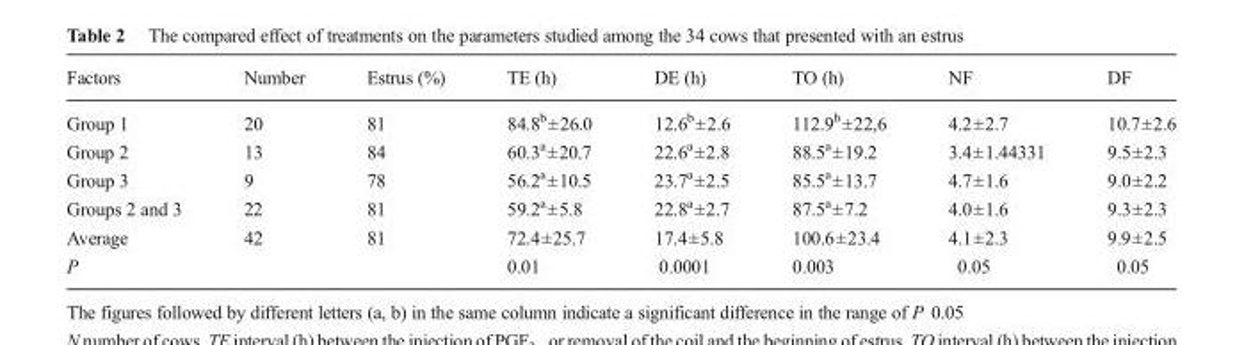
<table><thead><tr><td>Factors</td><td>Number</td><td>Estrus (%)</td><td>TE (h)</td><td>DE (h)</td><td>TO (h)</td><td>NF</td><td>DF</td></tr></thead><tbody><tr><td>Group 1</td><td>20</td><td>81</td><td>84.8<sup>b</sup>±26.0</td><td>12.6<sup>b</sup>±2.6</td><td>112.9<sup>b</sup>±22,6</td><td>4.2±2.7</td><td>10.7±2.6</td></tr><tr><td>Group 2</td><td>13</td><td>84</td><td>60.3<sup>a</sup>±20.7</td><td>22.6<sup>a</sup>±2.8</td><td>88.5<sup>a</sup>±19.2</td><td>3.4±1.44331</td><td>9.5±2.3</td></tr><tr><td>Group 3</td><td>9</td><td>78</td><td>56.2<sup>a</sup>±10.5</td><td>23.7<sup>a</sup>±2.5</td><td>85.5<sup>a</sup>±13.7</td><td>4.7±1.6</td><td>9.0±2.2</td></tr><tr><td>Groups 2 and 3</td><td>22</td><td>81</td><td>59.2<sup>a</sup>±5.8</td><td>22.8<sup>a</sup>±2.7</td><td>87.5<sup>a</sup>±7.2</td><td>4.0±1.6</td><td>9.3±2.3</td></tr><tr><td>Average</td><td>42</td><td>81</td><td>72.4±25.7</td><td>17.4±5.8</td><td>100.6±23.4</td><td>4.1±2.3</td><td>9.9±2.5</td></tr><tr><td>P</td><td></td><td></td><td>0.01</td><td>0.0001</td><td>0.003</td><td>0.05</td><td>0.05</td></tr></tbody></table>